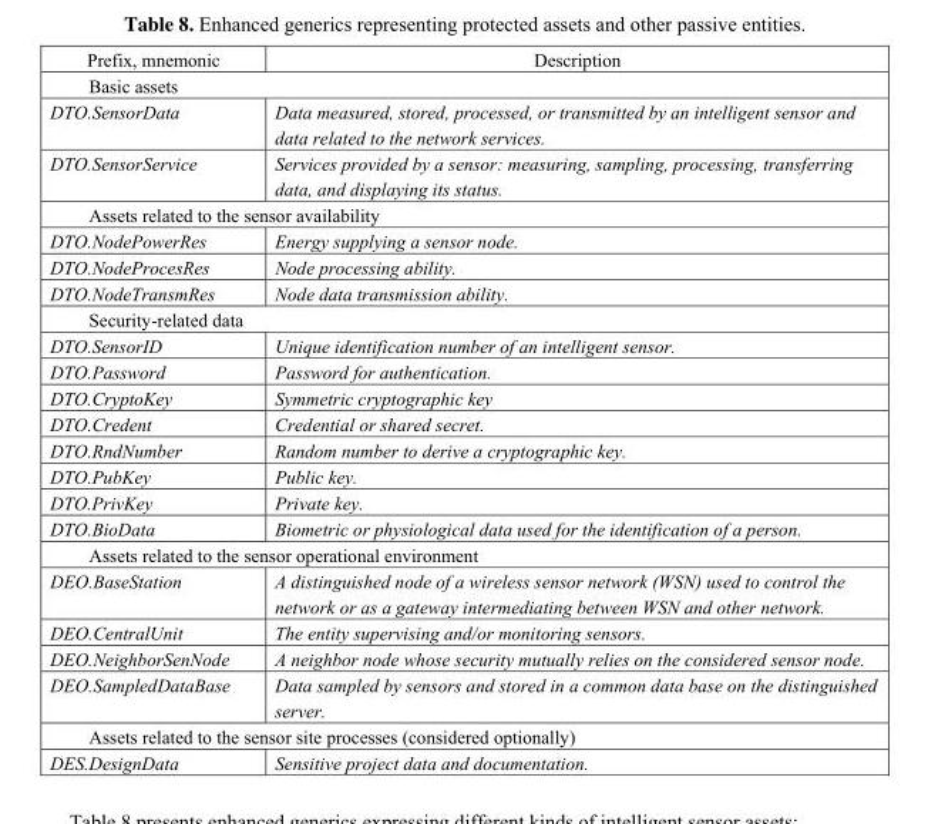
<table><thead><tr><td>Prefix, mnemonic</td><td>Description</td></tr></thead><tbody><tr><td colspan="2">Basic assets</td></tr><tr><td>DTO.SensorData</td><td>Data measured, stored, processed, or transmitted by an intelligent sensor and data related to the network services.</td></tr><tr><td>DTO.SensorService</td><td>Services provided by a sensor: measuring, sampling, processing, transferring data, and displaying its status.</td></tr><tr><td colspan="2">Assets related to the sensor availability</td></tr><tr><td>DTO.NodePowerRes</td><td>Energy supplying a sensor node.</td></tr><tr><td>DTO.NodeProcesRes</td><td>Node processing ability.</td></tr><tr><td>DTO.NodeTransmRes</td><td>Node data transmission ability.</td></tr><tr><td colspan="2">Security-related data</td></tr><tr><td>DTO.SensorID</td><td>Unique identification number of an intelligent sensor.</td></tr><tr><td>DTO.Password</td><td>Password for authentication.</td></tr><tr><td>DTO.CryptoKey</td><td>Symmetric cryptographic key</td></tr><tr><td>DTO.Credent</td><td>Credential or shared secret.</td></tr><tr><td>DTO.RndNumber</td><td>Random number to derive a cryptographic key.</td></tr><tr><td>DTO.PubKey</td><td>Public key.</td></tr><tr><td>DTO.PrivKey</td><td>Private key.</td></tr><tr><td>DTO.BioData</td><td>Biometric or physiological data used for the identification of a person.</td></tr><tr><td colspan="2">Assets related to the sensor operational environment</td></tr><tr><td>DEO.BaseStation</td><td>A distinguished node of a wireless sensor network (WSN) used to control the network or as a gateway intermediating between WSN and other network.</td></tr><tr><td>DEO.CentralUnit</td><td>The entity supervising and/or monitoring sensors.</td></tr><tr><td>DEO.NeighborSenNode</td><td>A neighbor node whose security mutually relies on the considered sensor node.</td></tr><tr><td>DEO.SampledDataBase</td><td>Data sampled by sensors and stored in a common data base on the distinguished server.</td></tr><tr><td colspan="2">Assets related to the sensor site processes (considered optionally)</td></tr><tr><td>DES.DesignData</td><td>Sensitive project data and documentation.</td></tr></tbody></table>